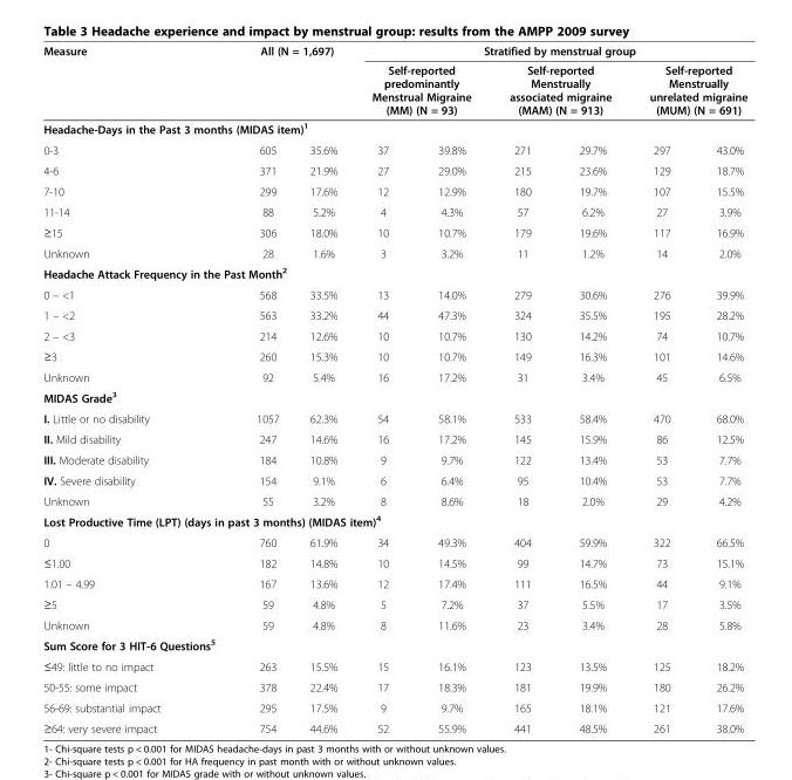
<table><thead><tr><td rowspan="2">Measure</td><td rowspan="2" colspan="2">All (N = 1,697)</td><td colspan="6">Stratified by menstrual group</td></tr><tr><td colspan="2">Self-reported predominantly Menstrual Migraine (MM) (N = 93)</td><td colspan="2">Self-reported Menstrually associated migraine (MAM) (N = 913)</td><td colspan="2">Self-reported Menstrually unrelated migraine (MUM) (N = 691)</td></tr><tr><td colspan="9">Headache-Days in the Past 3 months (MIDAS item)<sup>1</sup></td></tr><tr><td>0-3</td><td>605</td><td>35.6%</td><td>37</td><td>39.8%</td><td>271</td><td>29.7%</td><td>297</td><td>43.0%</td></tr></thead><tbody><tr><td>4-6</td><td>371</td><td>21.9%</td><td>27</td><td>29.0%</td><td>215</td><td>23.6%</td><td>129</td><td>18.7%</td></tr><tr><td>7-10</td><td>299</td><td>17.6%</td><td>12</td><td>12.9%</td><td>180</td><td>19.7%</td><td>107</td><td>15.5%</td></tr><tr><td>11-14</td><td>88</td><td>5.2%</td><td>4</td><td>4.3%</td><td>57</td><td>6.2%</td><td>27</td><td>3.9%</td></tr><tr><td>≥15</td><td>306</td><td>18.0%</td><td>10</td><td>10.7%</td><td>179</td><td>19.6%</td><td>117</td><td>16.9%</td></tr><tr><td>Unknown</td><td>28</td><td>1.6%</td><td>3</td><td>3.2%</td><td>11</td><td>1.2%</td><td>14</td><td>2.0%</td></tr><tr><td colspan="9">Headache Attack Frequency in the Past Month<sup>2</sup></td></tr><tr><td>0 – &lt;1</td><td>568</td><td>33.5%</td><td>13</td><td>14.0%</td><td>279</td><td>30.6%</td><td>276</td><td>39.9%</td></tr><tr><td>1 – &lt;2</td><td>563</td><td>33.2%</td><td>44</td><td>47.3%</td><td>324</td><td>35.5%</td><td>195</td><td>28.2%</td></tr><tr><td>2 – &lt;3</td><td>214</td><td>12.6%</td><td>10</td><td>10.7%</td><td>130</td><td>14.2%</td><td>74</td><td>10.7%</td></tr><tr><td>≥3</td><td>260</td><td>15.3%</td><td>10</td><td>10.7%</td><td>149</td><td>16.3%</td><td>101</td><td>14.6%</td></tr><tr><td>Unknown</td><td>92</td><td>5.4%</td><td>16</td><td>17.2%</td><td>31</td><td>3.4%</td><td>45</td><td>6.5%</td></tr><tr><td colspan="9">MIDAS Grade<sup>3</sup></td></tr><tr><td>I. Little or no disability</td><td>1057</td><td>62.3%</td><td>54</td><td>58.1%</td><td>533</td><td>58.4%</td><td>470</td><td>68.0%</td></tr><tr><td>II. Mild disability</td><td>247</td><td>14.6%</td><td>16</td><td>17.2%</td><td>145</td><td>15.9%</td><td>86</td><td>12.5%</td></tr><tr><td>III. Moderate disability</td><td>184</td><td>10.8%</td><td>9</td><td>9.7%</td><td>122</td><td>13.4%</td><td>53</td><td>7.7%</td></tr><tr><td>IV. Severe disability</td><td>154</td><td>9.1%</td><td>6</td><td>6.4%</td><td>95</td><td>10.4%</td><td>53</td><td>7.7%</td></tr><tr><td>Unknown</td><td>55</td><td>3.2%</td><td>8</td><td>8.6%</td><td>18</td><td>2.0%</td><td>29</td><td>4.2%</td></tr><tr><td colspan="9">Lost Productive Time (LPT) (days in past 3 months) (MIDAS item)<sup>4</sup></td></tr><tr><td>0</td><td>760</td><td>61.9%</td><td>34</td><td>49.3%</td><td>404</td><td>59.9%</td><td>322</td><td>66.5%</td></tr><tr><td>≤1.00</td><td>182</td><td>14.8%</td><td>10</td><td>14.5%</td><td>99</td><td>14.7%</td><td>73</td><td>15.1%</td></tr><tr><td>1.01 – 4.99</td><td>167</td><td>13.6%</td><td>12</td><td>17.4%</td><td>111</td><td>16.5%</td><td>44</td><td>9.1%</td></tr><tr><td>≥5</td><td>59</td><td>4.8%</td><td>5</td><td>7.2%</td><td>37</td><td>5.5%</td><td>17</td><td>3.5%</td></tr><tr><td>Unknown</td><td>59</td><td>4.8%</td><td>8</td><td>11.6%</td><td>23</td><td>3.4%</td><td>28</td><td>5.8%</td></tr><tr><td colspan="9">Sum Score for 3 HIT-6 Questions<sup>5</sup></td></tr><tr><td>≤49: little to no impact</td><td>263</td><td>15.5%</td><td>15</td><td>16.1%</td><td>123</td><td>13.5%</td><td>125</td><td>18.2%</td></tr><tr><td>50-55: some impact</td><td>378</td><td>22.4%</td><td>17</td><td>18.3%</td><td>181</td><td>19.9%</td><td>180</td><td>26.2%</td></tr><tr><td>56-69: substantial impact</td><td>295</td><td>17.5%</td><td>9</td><td>9.7%</td><td>165</td><td>18.1%</td><td>121</td><td>17.6%</td></tr><tr><td>≥64: very severe impact</td><td>754</td><td>44.6%</td><td>52</td><td>55.9%</td><td>441</td><td>48.5%</td><td>261</td><td>38.0%</td></tr></tbody></table>